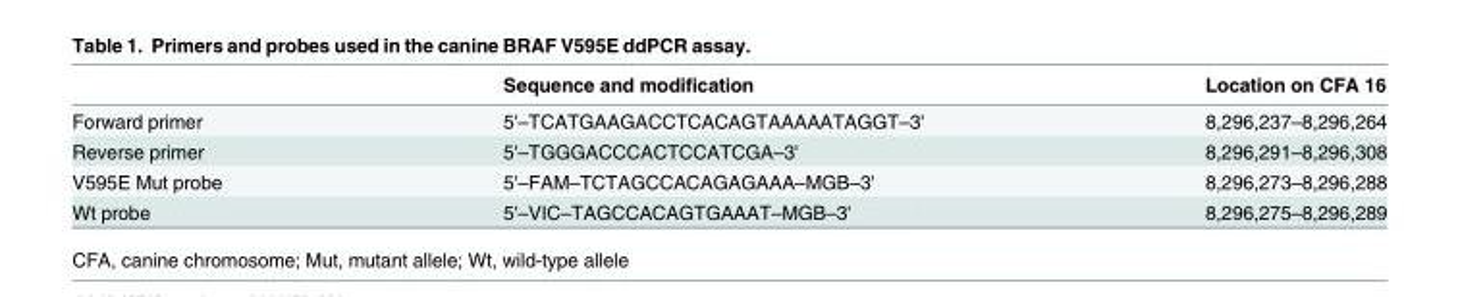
<table><thead><tr><td></td><td>Sequence and modification</td><td>Location on CFA 16</td></tr></thead><tbody><tr><td>Forward primer</td><td>5&#x27;–TCATGAAGACCTCACAGTAAAAATAGGT–3&#x27;</td><td>8,296,237–8,296,264</td></tr><tr><td>Reverse primer</td><td>5&#x27;–TGGGACCCACTCCATCGA–3&#x27;</td><td>8,296,291–8,296,308</td></tr><tr><td>V595E Mut probe</td><td>5&#x27;–FAM–TCTAGCCACAGAGAAA–MGB–3&#x27;</td><td>8,296,273–8,296,288</td></tr><tr><td>Wt probe</td><td>5&#x27;–VIC–TAGCCACAGTGAAAT–MGB–3&#x27;</td><td>8,296,275–8,296,289</td></tr></tbody></table>